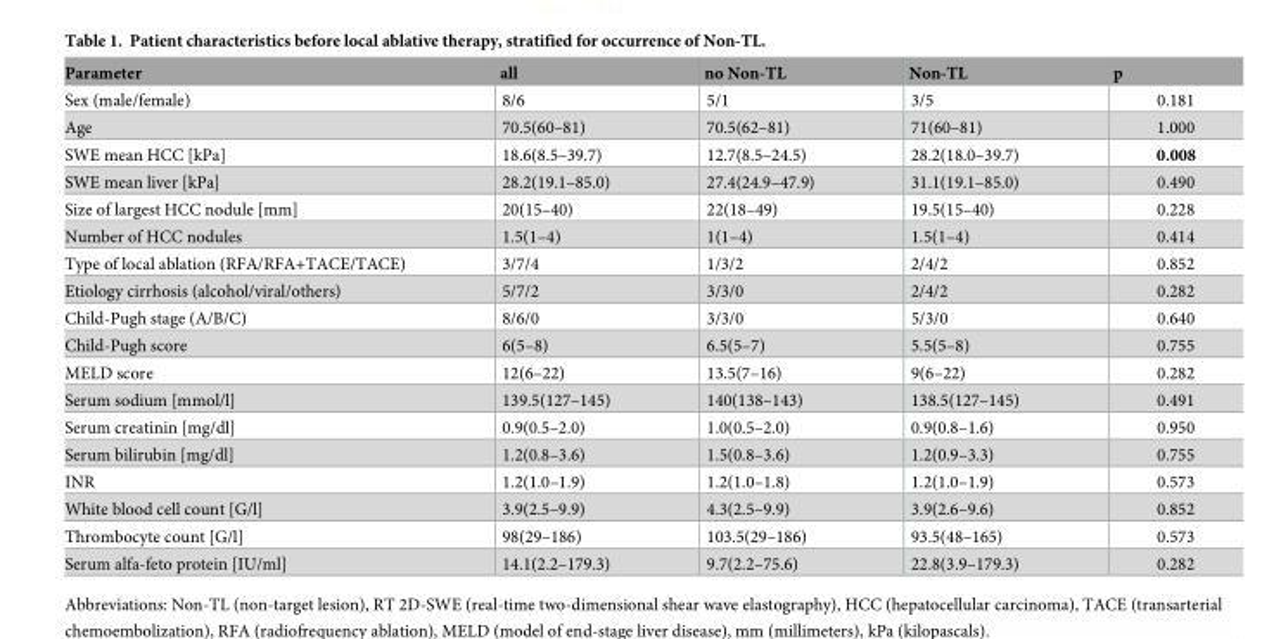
<table><thead><tr><td>Parameter</td><td>all</td><td>no Non-TL</td><td>Non-TL</td><td>p</td></tr></thead><tbody><tr><td>Sex (male/female)</td><td>8/6</td><td>5/1</td><td>3/5</td><td>0.181</td></tr><tr><td>Age</td><td>70.5(60–81)</td><td>70.5(62–81)</td><td>71(60–81)</td><td>1.000</td></tr><tr><td>SWE mean HCC [kPa]</td><td>18.6(8.5–39.7)</td><td>12.7(8.5–24.5)</td><td>28.2(18.0–39.7)</td><td>0.008</td></tr><tr><td>SWE mean liver [kPa]</td><td>28.2(19.1–85.0)</td><td>27.4(24.9–47.9)</td><td>31.1(19.1–85.0)</td><td>0.490</td></tr><tr><td>Size of largest HCC nodule [mm]</td><td>20(15–40)</td><td>22(18–49)</td><td>19.5(15–40)</td><td>0.228</td></tr><tr><td>Number of HCC nodules</td><td>1.5(1–4)</td><td>1(1–4)</td><td>1.5(1–4)</td><td>0.414</td></tr><tr><td>Type of local ablation (RFA/RFA+TACE/TACE)</td><td>3/7/4</td><td>1/3/2</td><td>2/4/2</td><td>0.852</td></tr><tr><td>Etiology cirrhosis (alcohol/viral/others)</td><td>5/7/2</td><td>3/3/0</td><td>2/4/2</td><td>0.282</td></tr><tr><td>Child-Pugh stage (A/B/C)</td><td>8/6/0</td><td>3/3/0</td><td>5/3/0</td><td>0.640</td></tr><tr><td>Child-Pugh score</td><td>6(5–8)</td><td>6.5(5–7)</td><td>5.5(5–8)</td><td>0.755</td></tr><tr><td>MELD score</td><td>12(6–22)</td><td>13.5(7–16)</td><td>9(6–22)</td><td>0.282</td></tr><tr><td>Serum sodium [mmol/l]</td><td>139.5(127–145)</td><td>140(138–143)</td><td>138.5(127–145)</td><td>0.491</td></tr><tr><td>Serum creatinin [mg/dl]</td><td>0.9(0.5–2.0)</td><td>1.0(0.5–2.0)</td><td>0.9(0.8–1.6)</td><td>0.950</td></tr><tr><td>Serum bilirubin [mg/dl]</td><td>1.2(0.8–3.6)</td><td>1.5(0.8–3.6)</td><td>1.2(0.9–3.3)</td><td>0.755</td></tr><tr><td>INR</td><td>1.2(1.0–1.9)</td><td>1.2(1.0–1.8)</td><td>1.2(1.0–1.9)</td><td>0.573</td></tr><tr><td>White blood cell count [G/l]</td><td>3.9(2.5–9.9)</td><td>4.3(2.5–9.9)</td><td>3.9(2.6–9.6)</td><td>0.852</td></tr><tr><td>Thrombocyte count [G/l]</td><td>98(29–186)</td><td>103.5(29–186)</td><td>93.5(48–165)</td><td>0.573</td></tr><tr><td>Serum alfa-feto protein [IU/ml]</td><td>14.1(2.2–179.3)</td><td>9.7(2.2–75.6)</td><td>22.8(3.9–179.3)</td><td>0.282</td></tr></tbody></table>